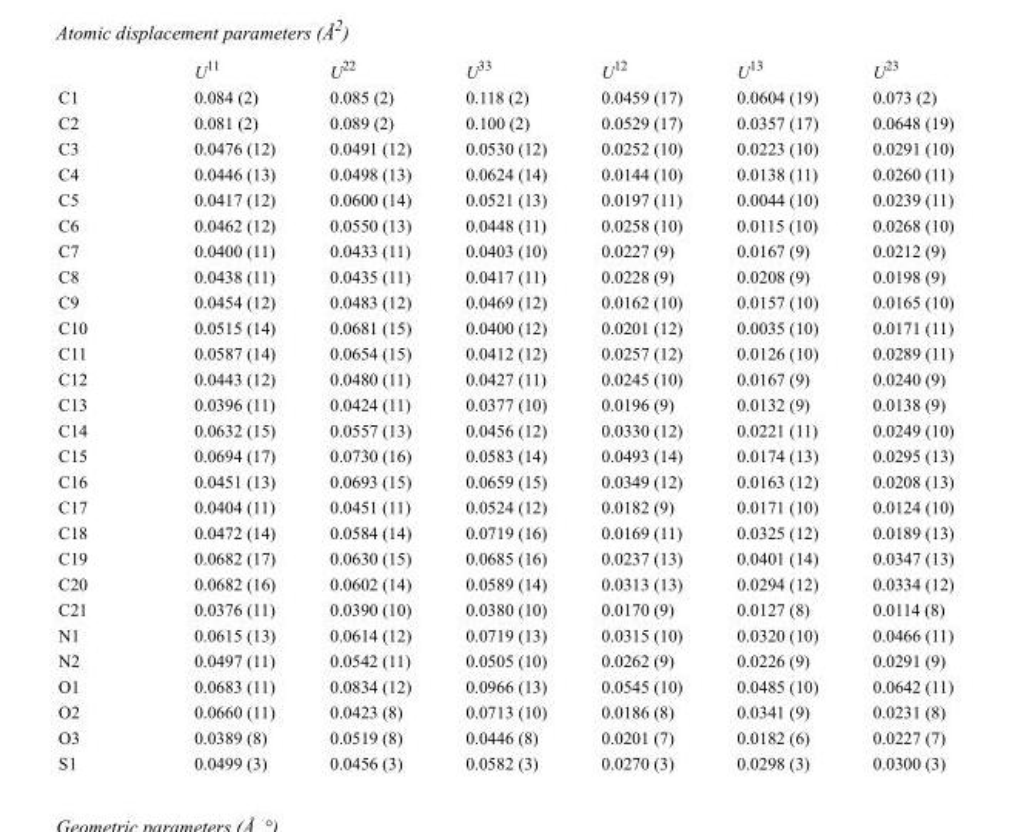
<table><thead><tr><td></td><td>U<sup>11</sup></td><td>U<sup>22</sup></td><td>U<sup>33</sup></td><td>U<sup>12</sup></td><td>U<sup>13</sup></td><td>U<sup>23</sup></td></tr></thead><tbody><tr><td>C1</td><td>0.084 (2)</td><td>0.085 (2)</td><td>0.118 (2)</td><td>0.0459 (17)</td><td>0.0604 (19)</td><td>0.073 (2)</td></tr><tr><td>C2</td><td>0.081 (2)</td><td>0.089 (2)</td><td>0.100 (2)</td><td>0.0529 (17)</td><td>0.0357 (17)</td><td>0.0648 (19)</td></tr><tr><td>C3</td><td>0.0476 (12)</td><td>0.0491 (12)</td><td>0.0530 (12)</td><td>0.0252 (10)</td><td>0.0223 (10)</td><td>0.0291 (10)</td></tr><tr><td>C4</td><td>0.0446 (13)</td><td>0.0498 (13)</td><td>0.0624 (14)</td><td>0.0144 (10)</td><td>0.0138 (11)</td><td>0.0260 (11)</td></tr><tr><td>C5</td><td>0.0417 (12)</td><td>0.0600 (14)</td><td>0.0521 (13)</td><td>0.0197 (11)</td><td>0.0044 (10)</td><td>0.0239 (11)</td></tr><tr><td>C6</td><td>0.0462 (12)</td><td>0.0550 (13)</td><td>0.0448 (11)</td><td>0.0258 (10)</td><td>0.0115 (10)</td><td>0.0268 (10)</td></tr><tr><td>C7</td><td>0.0400 (11)</td><td>0.0433 (11)</td><td>0.0403 (10)</td><td>0.0227 (9)</td><td>0.0167 (9)</td><td>0.0212 (9)</td></tr><tr><td>C8</td><td>0.0438 (11)</td><td>0.0435 (11)</td><td>0.0417 (11)</td><td>0.0228 (9)</td><td>0.0208 (9)</td><td>0.0198 (9)</td></tr><tr><td>C9</td><td>0.0454 (12)</td><td>0.0483 (12)</td><td>0.0469 (12)</td><td>0.0162 (10)</td><td>0.0157 (10)</td><td>0.0165 (10)</td></tr><tr><td>C10</td><td>0.0515 (14)</td><td>0.0681 (15)</td><td>0.0400 (12)</td><td>0.0201 (12)</td><td>0.0035 (10)</td><td>0.0171 (11)</td></tr><tr><td>C11</td><td>0.0587 (14)</td><td>0.0654 (15)</td><td>0.0412 (12)</td><td>0.0257 (12)</td><td>0.0126 (10)</td><td>0.0289 (11)</td></tr><tr><td>C12</td><td>0.0443 (12)</td><td>0.0480 (11)</td><td>0.0427 (11)</td><td>0.0245 (10)</td><td>0.0167 (9)</td><td>0.0240 (9)</td></tr><tr><td>C13</td><td>0.0396 (11)</td><td>0.0424 (11)</td><td>0.0377 (10)</td><td>0.0196 (9)</td><td>0.0132 (9)</td><td>0.0138 (9)</td></tr><tr><td>C14</td><td>0.0632 (15)</td><td>0.0557 (13)</td><td>0.0456 (12)</td><td>0.0330 (12)</td><td>0.0221 (11)</td><td>0.0249 (10)</td></tr><tr><td>C15</td><td>0.0694 (17)</td><td>0.0730 (16)</td><td>0.0583 (14)</td><td>0.0493 (14)</td><td>0.0174 (13)</td><td>0.0295 (13)</td></tr><tr><td>C16</td><td>0.0451 (13)</td><td>0.0693 (15)</td><td>0.0659 (15)</td><td>0.0349 (12)</td><td>0.0163 (12)</td><td>0.0208 (13)</td></tr><tr><td>C17</td><td>0.0404 (11)</td><td>0.0451 (11)</td><td>0.0524 (12)</td><td>0.0182 (9)</td><td>0.0171 (10)</td><td>0.0124 (10)</td></tr><tr><td>C18</td><td>0.0472 (14)</td><td>0.0584 (14)</td><td>0.0719 (16)</td><td>0.0169 (11)</td><td>0.0325 (12)</td><td>0.0189 (13)</td></tr><tr><td>C19</td><td>0.0682 (17)</td><td>0.0630 (15)</td><td>0.0685 (16)</td><td>0.0237 (13)</td><td>0.0401 (14)</td><td>0.0347 (13)</td></tr><tr><td>C20</td><td>0.0682 (16)</td><td>0.0602 (14)</td><td>0.0589 (14)</td><td>0.0313 (13)</td><td>0.0294 (12)</td><td>0.0334 (12)</td></tr><tr><td>C21</td><td>0.0376 (11)</td><td>0.0390 (10)</td><td>0.0380 (10)</td><td>0.0170 (9)</td><td>0.0127 (8)</td><td>0.0114 (8)</td></tr><tr><td>N1</td><td>0.0615 (13)</td><td>0.0614 (12)</td><td>0.0719 (13)</td><td>0.0315 (10)</td><td>0.0320 (10)</td><td>0.0466 (11)</td></tr><tr><td>N2</td><td>0.0497 (11)</td><td>0.0542 (11)</td><td>0.0505 (10)</td><td>0.0262 (9)</td><td>0.0226 (9)</td><td>0.0291 (9)</td></tr><tr><td>O1</td><td>0.0683 (11)</td><td>0.0834 (12)</td><td>0.0966 (13)</td><td>0.0545 (10)</td><td>0.0485 (10)</td><td>0.0642 (11)</td></tr><tr><td>O2</td><td>0.0660 (11)</td><td>0.0423 (8)</td><td>0.0713 (10)</td><td>0.0186 (8)</td><td>0.0341 (9)</td><td>0.0231 (8)</td></tr><tr><td>O3</td><td>0.0389 (8)</td><td>0.0519 (8)</td><td>0.0446 (8)</td><td>0.0201 (7)</td><td>0.0182 (6)</td><td>0.0227 (7)</td></tr><tr><td>S1</td><td>0.0499 (3)</td><td>0.0456 (3)</td><td>0.0582 (3)</td><td>0.0270 (3)</td><td>0.0298 (3)</td><td>0.0300 (3)</td></tr></tbody></table>